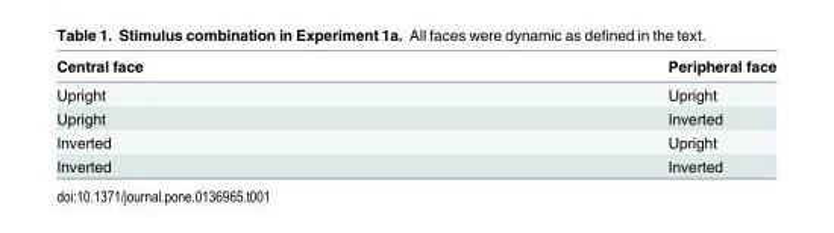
<table><thead><tr><td>Central face</td><td>Peripheral face</td></tr></thead><tbody><tr><td>Upright</td><td>Upright</td></tr><tr><td>Upright</td><td>Inverted</td></tr><tr><td>Inverted</td><td>Upright</td></tr><tr><td>Inverted</td><td>Inverted</td></tr></tbody></table>